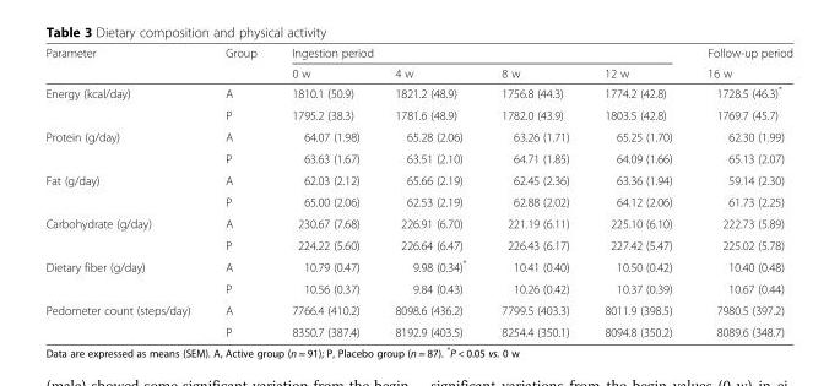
<table><thead><tr><td rowspan="2">Parameter</td><td rowspan="2">Group</td><td colspan="4">Ingestion period</td><td rowspan="2">Follow-up period 16 w</td></tr><tr><td>0 w</td><td>4 w</td><td>8 w</td><td>12 w</td></tr></thead><tbody><tr><td rowspan="2">Energy (kcal/day)</td><td>A</td><td>1810.1 (50.9)</td><td>1821.2 (48.9)</td><td>1756.8 (44.3)</td><td>1774.2 (42.8)</td><td>1728.5 (46.3)*</td></tr><tr><td>P</td><td>1795.2 (38.3)</td><td>1781.6 (48.9)</td><td>1782.0 (43.9)</td><td>1803.5 (42.8)</td><td>1769.7 (45.7)</td></tr><tr><td rowspan="2">Protein (g/day)</td><td>A</td><td>64.07 (1.98)</td><td>65.28 (2.06)</td><td>63.26 (1.71)</td><td>65.25 (1.70)</td><td>62.30 (1.99)</td></tr><tr><td>P</td><td>63.63 (1.67)</td><td>63.51 (2.10)</td><td>64.71 (1.85)</td><td>64.09 (1.66)</td><td>65.13 (2.07)</td></tr><tr><td rowspan="2">Fat (g/day)</td><td>A</td><td>62.03 (2.12)</td><td>65.66 (2.19)</td><td>62.45 (2.36)</td><td>63.36 (1.94)</td><td>59.14 (2.30)</td></tr><tr><td>P</td><td>65.00 (2.06)</td><td>62.53 (2.19)</td><td>62.88 (2.02)</td><td>64.12 (2.06)</td><td>61.73 (2.25)</td></tr><tr><td rowspan="2">Carbohydrate (g/day)</td><td>A</td><td>230.67 (7.68)</td><td>226.91 (6.70)</td><td>221.19 (6.11)</td><td>225.10 (6.10)</td><td>222.73 (5.89)</td></tr><tr><td>P</td><td>224.22 (5.60)</td><td>226.64 (6.47)</td><td>226.43 (6.17)</td><td>227.42 (5.47)</td><td>225.02 (5.78)</td></tr><tr><td rowspan="2">Dietary fiber (g/day)</td><td>A</td><td>10.79 (0.47)</td><td>9.98 (0.34)*</td><td>10.41 (0.40)</td><td>10.50 (0.42)</td><td>10.40 (0.48)</td></tr><tr><td>P</td><td>10.56 (0.37)</td><td>9.84 (0.43)</td><td>10.26 (0.42)</td><td>10.37 (0.39)</td><td>10.67 (0.44)</td></tr><tr><td rowspan="2">Pedometer count (steps/day)</td><td>A</td><td>7766.4 (410.2)</td><td>8098.6 (436.2)</td><td>7799.5 (403.3)</td><td>8011.9 (398.5)</td><td>7980.5 (397.2)</td></tr><tr><td>P</td><td>8350.7 (387.4)</td><td>8192.9 (403.5)</td><td>8254.4 (350.1)</td><td>8094.8 (350.2)</td><td>8089.6 (348.7)</td></tr></tbody></table>